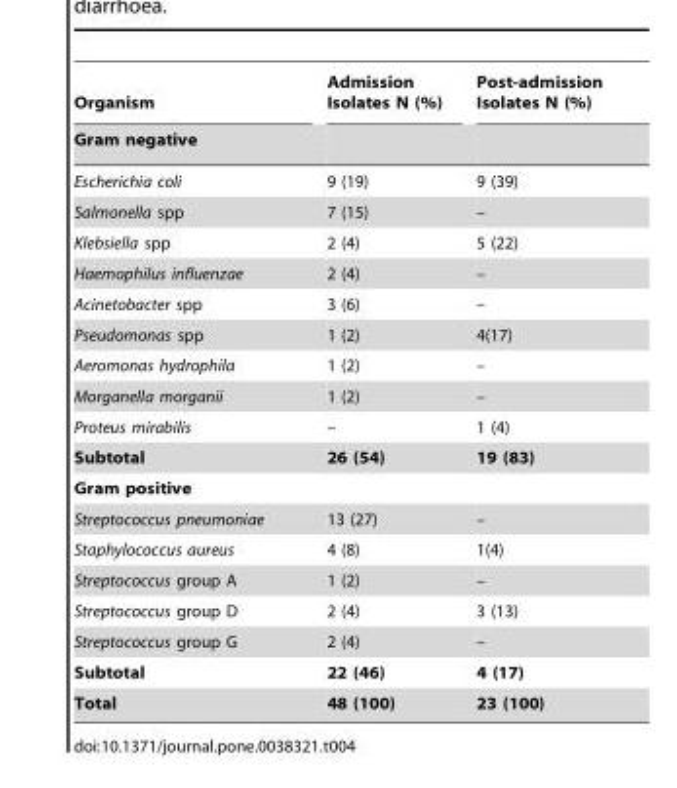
<table><thead><tr><td rowspan="2">Organism Gram negative</td><td rowspan="2">Admission Isolates N (%)</td><td rowspan="2">Post-admission Isolates N (%)</td></tr><tr></tr></thead><tbody><tr><td>Escherichia coli</td><td>9 (19)</td><td>9 (39)</td></tr><tr><td>Salmonella spp</td><td>7 (15)</td><td>–</td></tr><tr><td>Klebsiella spp</td><td>2 (4)</td><td>5 (22)</td></tr><tr><td>Haemophilus influenzae</td><td>2 (4)</td><td>–</td></tr><tr><td>Acinetobacter spp</td><td>3 (6)</td><td>–</td></tr><tr><td>Pseudomonas spp</td><td>1 (2)</td><td>4(17)</td></tr><tr><td>Aeromonas hydrophila</td><td>1 (2)</td><td>–</td></tr><tr><td>Morganella morganii</td><td>1 (2)</td><td>–</td></tr><tr><td>Proteus mirabilis</td><td>–</td><td>1 (4)</td></tr><tr><td>Subtotal</td><td>26 (54)</td><td>19 (83)</td></tr><tr><td colspan="3">Gram positive</td></tr><tr><td>Streptococcus pneumoniae</td><td>13 (27)</td><td>–</td></tr><tr><td>Staphylococcus aureus</td><td>4 (8)</td><td>1(4)</td></tr><tr><td>Streptococcus group A</td><td>1 (2)</td><td>–</td></tr><tr><td>Streptococcus group D</td><td>2 (4)</td><td>3 (13)</td></tr><tr><td>Streptococcus group G</td><td>2 (4)</td><td>–</td></tr><tr><td>Subtotal</td><td>22 (46)</td><td>4 (17)</td></tr><tr><td>Total</td><td>48 (100)</td><td>23 (100)</td></tr></tbody></table>